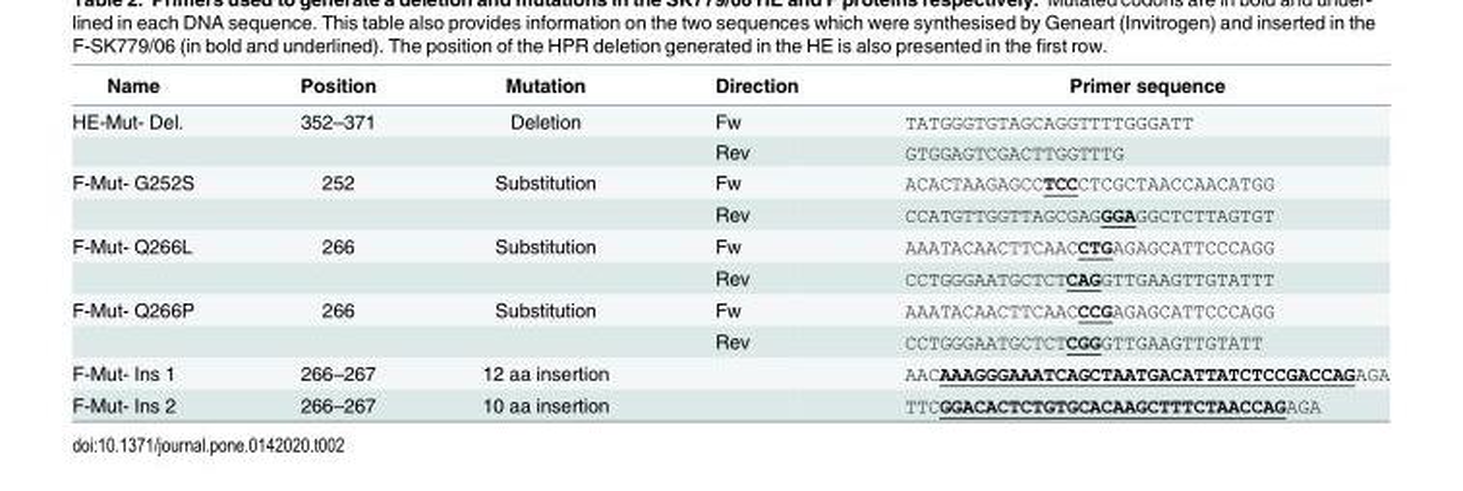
<table><thead><tr><td>Name</td><td>Position</td><td>Mutation</td><td>Direction</td><td>Primer sequence</td></tr></thead><tbody><tr><td rowspan="2">HE-Mut- Del.</td><td>352–371</td><td>Deletion</td><td>Fw</td><td>TATGGGTGTAGCAGGTTTTGGGATT</td></tr><tr><td></td><td></td><td>Rev</td><td>GTGGAGTCGACTTGGTTTG</td></tr><tr><td rowspan="2">F-Mut- G252S</td><td>252</td><td>Substitution</td><td>Fw</td><td>ACACTAAGAGCCTCCCTCGCTAACCAACATGG</td></tr><tr><td></td><td></td><td>Rev</td><td>CCATGTTGGTTAGCGAGGGAGGCTCTTAGTGT</td></tr><tr><td rowspan="2">F-Mut- Q266L</td><td>266</td><td>Substitution</td><td>Fw</td><td>AAATACAACTTCAACCTGAGAGCATTCCCAGG</td></tr><tr><td></td><td></td><td>Rev</td><td>CCTGGGAATGCTCTCAGGTTGAAGTTGTATTT</td></tr><tr><td rowspan="2">F-Mut- Q266P</td><td>266</td><td>Substitution</td><td>Fw</td><td>AAATACAACTTCAACCCGAGAGCATTCCCAGG</td></tr><tr><td></td><td></td><td>Rev</td><td>CCTGGGAATGCTCTCGGGTTGAAGTTGTATT</td></tr><tr><td>F-Mut- Ins 1</td><td>266–267</td><td>12 aa insertion</td><td></td><td>AACAAAGGGAAATCAGCTAATGACATTATCTCCGACCAGAGA</td></tr><tr><td>F-Mut- Ins 2</td><td>266–267</td><td>10 aa insertion</td><td></td><td>TTCGGACACTCTGTGCACAAGCTTTCTAACCAGAGA</td></tr></tbody></table>